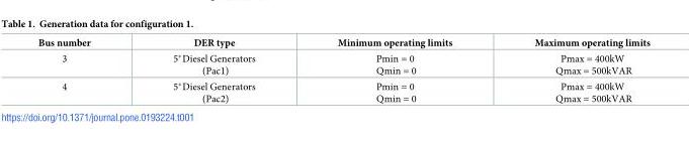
<table><thead><tr><td>Bus number</td><td>DER type</td><td>Minimum operating limits</td><td>Maximum operating limits</td></tr></thead><tbody><tr><td>3</td><td>5*Diesel Generators (Pac1)</td><td>Pmin = 0 Qmin = 0</td><td>Pmax = 400kW Qmax = 500kVAR</td></tr><tr><td>4</td><td>5*Diesel Generators (Pac2)</td><td>Pmin = 0 Qmin = 0</td><td>Pmax = 400kW Qmax = 500kVAR</td></tr></tbody></table>